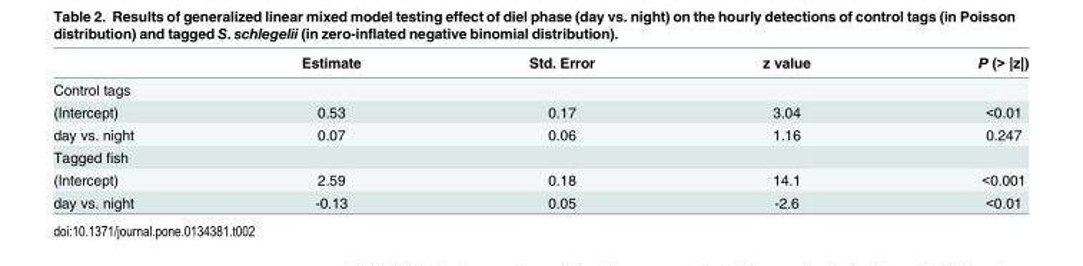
<table><thead><tr><td></td><td>Estimate</td><td>Std. Error</td><td>z value</td><td>P (&gt; |z|)</td></tr></thead><tbody><tr><td colspan="5">Control tags</td></tr><tr><td>(Intercept)</td><td>0.53</td><td>0.17</td><td>3.04</td><td>&lt;0.01</td></tr><tr><td>day vs. night</td><td>0.07</td><td>0.06</td><td>1.16</td><td>0.247</td></tr><tr><td colspan="5">Tagged fish</td></tr><tr><td>(Intercept)</td><td>2.59</td><td>0.18</td><td>14.1</td><td>&lt;0.001</td></tr><tr><td>day vs. night</td><td>-0.13</td><td>0.05</td><td>-2.6</td><td>&lt;0.01</td></tr></tbody></table>